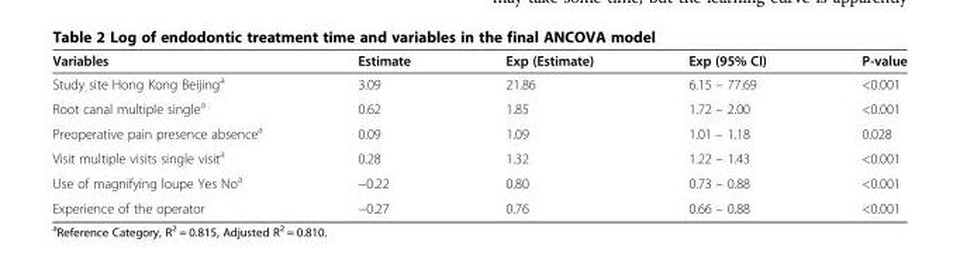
<table><thead><tr><td>Variables</td><td>Estimate</td><td>Exp (Estimate)</td><td>Exp (95% CI)</td><td>P-value</td></tr></thead><tbody><tr><td>Study site Hong Kong Beijing<sup>a</sup></td><td>3.09</td><td>21.86</td><td>6.15 – 77.69</td><td>&lt;0.001</td></tr><tr><td>Root canal multiple single<sup>a</sup></td><td>0.62</td><td>1.85</td><td>1.72 – 2.00</td><td>&lt;0.001</td></tr><tr><td>Preoperative pain presence absence<sup>a</sup></td><td>0.09</td><td>1.09</td><td>1.01 – 1.18</td><td>0.028</td></tr><tr><td>Visit multiple visits single visit<sup>a</sup></td><td>0.28</td><td>1.32</td><td>1.22 – 1.43</td><td>&lt;0.001</td></tr><tr><td>Use of magnifying loupe Yes No<sup>a</sup></td><td>−0.22</td><td>0.80</td><td>0.73 – 0.88</td><td>&lt;0.001</td></tr><tr><td>Experience of the operator</td><td>−0.27</td><td>0.76</td><td>0.66 – 0.88</td><td>&lt;0.001</td></tr></tbody></table>